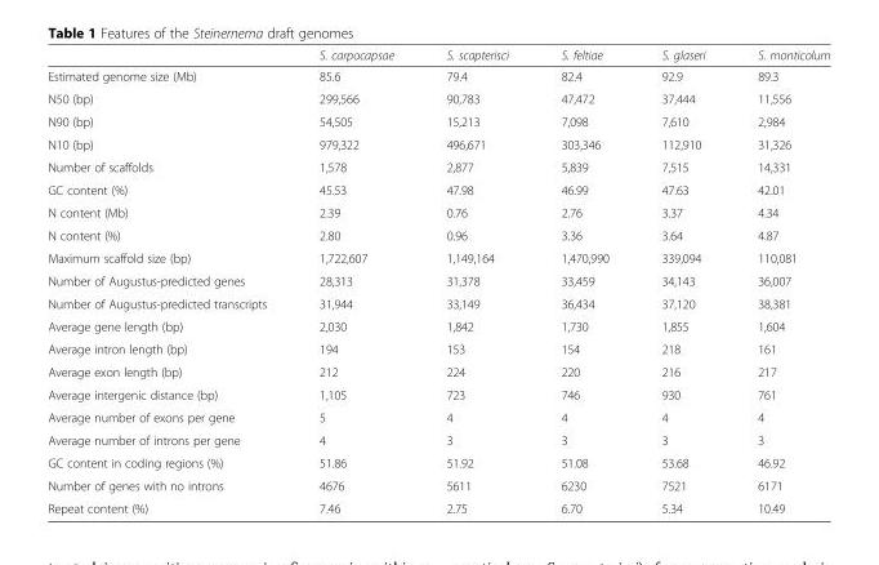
<table><thead><tr><td></td><td>S. carpocapsae</td><td>S. scapterisci</td><td>S. feltiae</td><td>S. glaseri</td><td>S. monticolum</td></tr></thead><tbody><tr><td>Estimated genome size (Mb)</td><td>85.6</td><td>79.4</td><td>82.4</td><td>92.9</td><td>89.3</td></tr><tr><td>N50 (bp)</td><td>299,566</td><td>90,783</td><td>47,472</td><td>37,444</td><td>11,556</td></tr><tr><td>N90 (bp)</td><td>54,505</td><td>15,213</td><td>7,098</td><td>7,610</td><td>2,984</td></tr><tr><td>N10 (bp)</td><td>979,322</td><td>496,671</td><td>303,346</td><td>112,910</td><td>31,326</td></tr><tr><td>Number of scaffolds</td><td>1,578</td><td>2,877</td><td>5,839</td><td>7,515</td><td>14,331</td></tr><tr><td>GC content (%)</td><td>45.53</td><td>47.98</td><td>46.99</td><td>47.63</td><td>42.01</td></tr><tr><td>N content (Mb)</td><td>2.39</td><td>0.76</td><td>2.76</td><td>3.37</td><td>4.34</td></tr><tr><td>N content (%)</td><td>2.80</td><td>0.96</td><td>3.36</td><td>3.64</td><td>4.87</td></tr><tr><td>Maximum scaffold size (bp)</td><td>1,722,607</td><td>1,149,164</td><td>1,470,990</td><td>339,094</td><td>110,081</td></tr><tr><td>Number of Augustus-predicted genes</td><td>28,313</td><td>31,378</td><td>33,459</td><td>34,143</td><td>36,007</td></tr><tr><td>Number of Augustus-predicted transcripts</td><td>31,944</td><td>33,149</td><td>36,434</td><td>37,120</td><td>38,381</td></tr><tr><td>Average gene length (bp)</td><td>2,030</td><td>1,842</td><td>1,730</td><td>1,855</td><td>1,604</td></tr><tr><td>Average intron length (bp)</td><td>194</td><td>153</td><td>154</td><td>218</td><td>161</td></tr><tr><td>Average exon length (bp)</td><td>212</td><td>224</td><td>220</td><td>216</td><td>217</td></tr><tr><td>Average intergenic distance (bp)</td><td>1,105</td><td>723</td><td>746</td><td>930</td><td>761</td></tr><tr><td>Average number of exons per gene</td><td>5</td><td>4</td><td>4</td><td>4</td><td>4</td></tr><tr><td>Average number of introns per gene</td><td>4</td><td>3</td><td>3</td><td>3</td><td>3</td></tr><tr><td>GC content in coding regions (%)</td><td>51.86</td><td>51.92</td><td>51.08</td><td>53.68</td><td>46.92</td></tr><tr><td>Number of genes with no introns</td><td>4676</td><td>5611</td><td>6230</td><td>7521</td><td>6171</td></tr><tr><td>Repeat content (%)</td><td>7.46</td><td>2.75</td><td>6.70</td><td>5.34</td><td>10.49</td></tr></tbody></table>